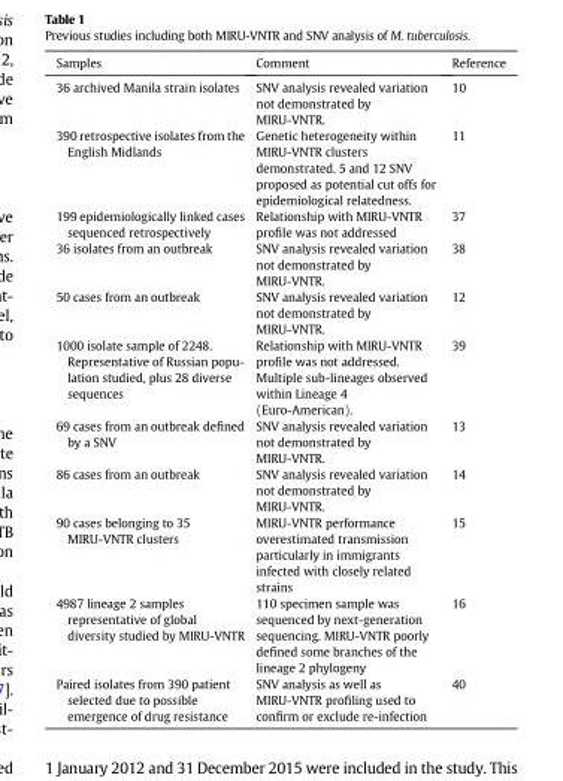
<table><thead><tr><td>Samples</td><td>Comment</td><td>Reference</td></tr></thead><tbody><tr><td>36 archived Manila strain isolates</td><td>SNV analysis revealed variation not demonstrated by MIRU-VNTR.</td><td>10</td></tr><tr><td>390 retrospective isolates from the English Midlands</td><td>Genetic heterogeneity within MIRU-VNTR clusters demonstrated. 5 and 12 SNV proposed as potential cut offs for epidemiological relatedness.</td><td>11</td></tr><tr><td>199 epidemiologically linked cases sequenced retrospectively</td><td>Relationship with MIRU-VNTR profile was not addressed</td><td>37</td></tr><tr><td>36 isolates from an outbreak</td><td>SNV analysis revealed variation not demonstrated by MIRU-VNTR.</td><td>38</td></tr><tr><td>50 cases from an outbreak</td><td>SNV analysis revealed variation not demonstrated by MIRU-VNTR.</td><td>12</td></tr><tr><td rowspan="2">1000 isolate sample of 2248. Representative of Russian popu- lation studied, plus 28 diverse sequences</td><td>Relationship with MIRU-VNTR profile was not addressed.</td><td rowspan="2">39</td></tr><tr><td>Multiple sub-lineages observed within Lineage 4 (Euro-American).</td></tr><tr><td>69 cases from an outbreak defined by a SNV</td><td>SNV analysis revealed variation not demonstrated by MIRU-VNTR.</td><td>13</td></tr><tr><td>86 cases from an outbreak</td><td>SNV analysis revealed variation not demonstrated by MIRU-VNTR.</td><td>14</td></tr><tr><td>90 cases belonging to 35 MIRU-VNTR clusters</td><td>MIRU-VNTR performance overestimated transmission particularly in immigrants infected with closely related strains</td><td>15</td></tr><tr><td>4987 lineage 2 samples representative of global diversity studied by MIRU-VNTR</td><td>110 specimen sample was sequenced by next-generation sequencing. MIRU-VNTR poorly defined some branches of the lineage 2 phylogeny</td><td>16</td></tr><tr><td>Paired isolates from 390 patient selected due to possible emergence of drug resistance</td><td>SNV analysis as well as MIRU-VNTR profiling used to confirm or exclude re-infection</td><td>40</td></tr></tbody></table>